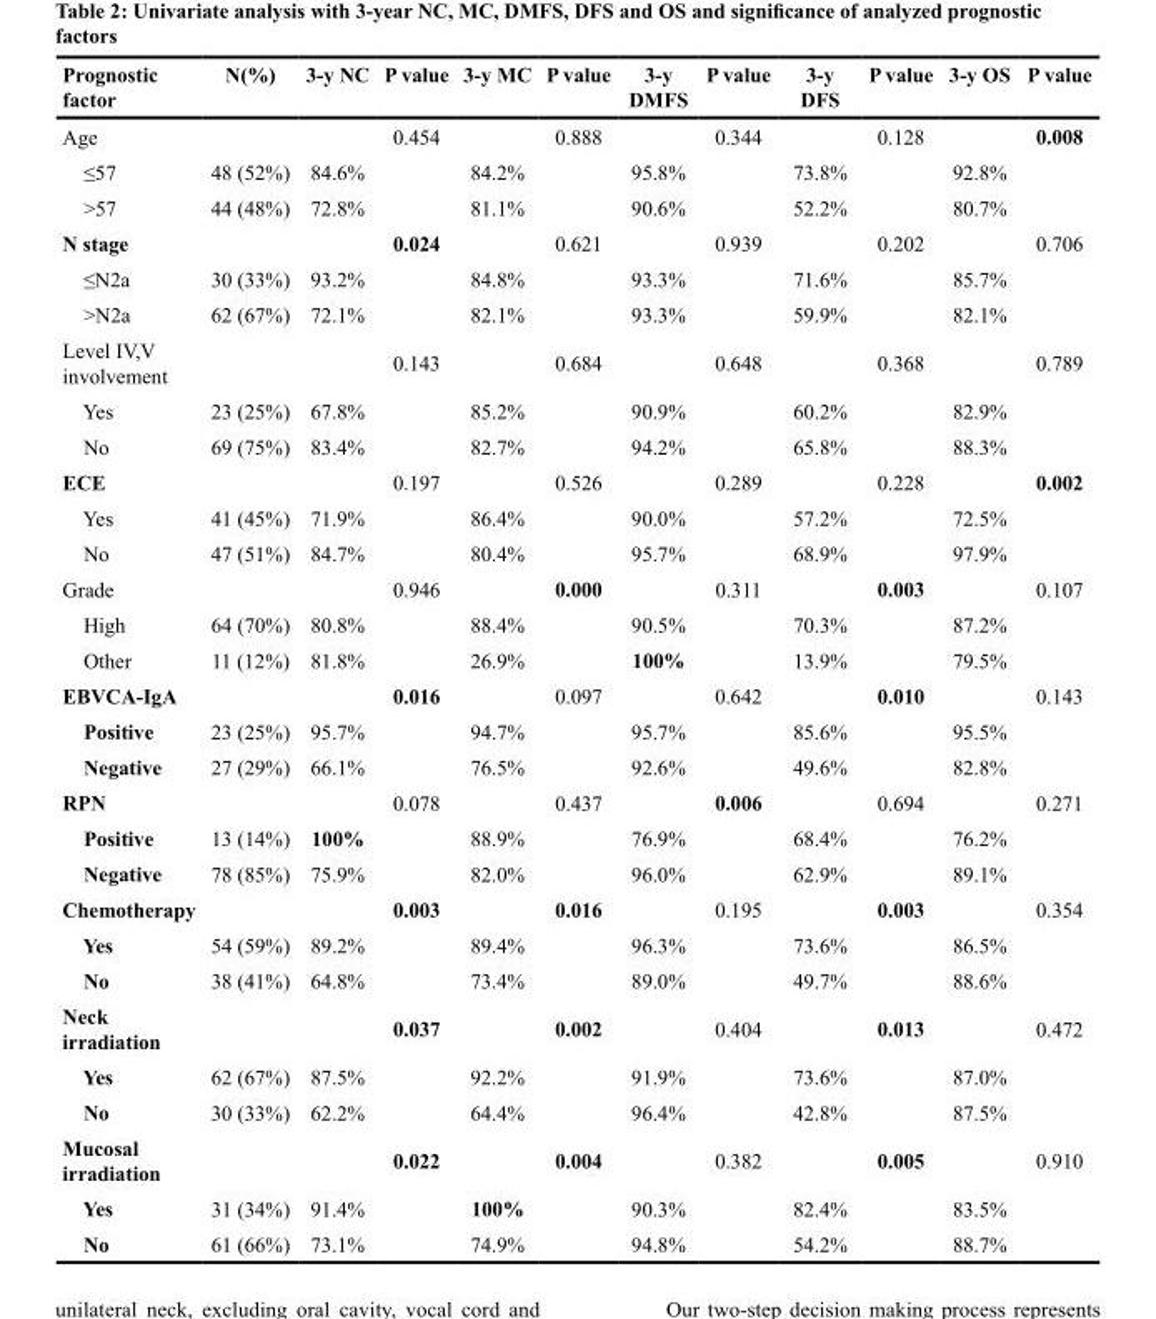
<table><thead><tr><td>Prognostic factor</td><td>N(%)</td><td>3-y NC</td><td>P value</td><td>3-y MC</td><td>P value</td><td>3-y DMFS</td><td>P value</td><td>3-y DFS</td><td>P value</td><td>3-y OS</td><td>P value</td></tr></thead><tbody><tr><td>Age</td><td></td><td></td><td>0.454</td><td></td><td>0.888</td><td></td><td>0.344</td><td></td><td>0.128</td><td></td><td>0.008</td></tr><tr><td>≤57</td><td>48 (52%)</td><td>84.6%</td><td></td><td>84.2%</td><td></td><td>95.8%</td><td></td><td>73.8%</td><td></td><td>92.8%</td><td></td></tr><tr><td>&gt;57</td><td>44 (48%)</td><td>72.8%</td><td></td><td>81.1%</td><td></td><td>90.6%</td><td></td><td>52.2%</td><td></td><td>80.7%</td><td></td></tr><tr><td>N stage</td><td></td><td></td><td>0.024</td><td></td><td>0.621</td><td></td><td>0.939</td><td></td><td>0.202</td><td></td><td>0.706</td></tr><tr><td>≤N2a</td><td>30 (33%)</td><td>93.2%</td><td></td><td>84.8%</td><td></td><td>93.3%</td><td></td><td>71.6%</td><td></td><td>85.7%</td><td></td></tr><tr><td>&gt;N2a</td><td>62 (67%)</td><td>72.1%</td><td></td><td>82.1%</td><td></td><td>93.3%</td><td></td><td>59.9%</td><td></td><td>82.1%</td><td></td></tr><tr><td>Level IV,V involvement</td><td></td><td></td><td>0.143</td><td></td><td>0.684</td><td></td><td>0.648</td><td></td><td>0.368</td><td></td><td>0.789</td></tr><tr><td>Yes</td><td>23 (25%)</td><td>67.8%</td><td></td><td>85.2%</td><td></td><td>90.9%</td><td></td><td>60.2%</td><td></td><td>82.9%</td><td></td></tr><tr><td>No</td><td>69 (75%)</td><td>83.4%</td><td></td><td>82.7%</td><td></td><td>94.2%</td><td></td><td>65.8%</td><td></td><td>88.3%</td><td></td></tr><tr><td>ECE</td><td></td><td></td><td>0.197</td><td></td><td>0.526</td><td></td><td>0.289</td><td></td><td>0.228</td><td></td><td>0.002</td></tr><tr><td>Yes</td><td>41 (45%)</td><td>71.9%</td><td></td><td>86.4%</td><td></td><td>90.0%</td><td></td><td>57.2%</td><td></td><td>72.5%</td><td></td></tr><tr><td>No</td><td>47 (51%)</td><td>84.7%</td><td></td><td>80.4%</td><td></td><td>95.7%</td><td></td><td>68.9%</td><td></td><td>97.9%</td><td></td></tr><tr><td>Grade</td><td></td><td></td><td>0.946</td><td></td><td>0.000</td><td></td><td>0.311</td><td></td><td>0.003</td><td></td><td>0.107</td></tr><tr><td>High</td><td>64 (70%)</td><td>80.8%</td><td></td><td>88.4%</td><td></td><td>90.5%</td><td></td><td>70.3%</td><td></td><td>87.2%</td><td></td></tr><tr><td>Other</td><td>11 (12%)</td><td>81.8%</td><td></td><td>26.9%</td><td></td><td>100%</td><td></td><td>13.9%</td><td></td><td>79.5%</td><td></td></tr><tr><td>EBVCA-IgA</td><td></td><td></td><td>0.016</td><td></td><td>0.097</td><td></td><td>0.642</td><td></td><td>0.010</td><td></td><td>0.143</td></tr><tr><td>Positive</td><td>23 (25%)</td><td>95.7%</td><td></td><td>94.7%</td><td></td><td>95.7%</td><td></td><td>85.6%</td><td></td><td>95.5%</td><td></td></tr><tr><td>Negative</td><td>27 (29%)</td><td>66.1%</td><td></td><td>76.5%</td><td></td><td>92.6%</td><td></td><td>49.6%</td><td></td><td>82.8%</td><td></td></tr><tr><td>RPN</td><td></td><td></td><td>0.078</td><td></td><td>0.437</td><td></td><td>0.006</td><td></td><td>0.694</td><td></td><td>0.271</td></tr><tr><td>Positive</td><td>13 (14%)</td><td>100%</td><td></td><td>88.9%</td><td></td><td>76.9%</td><td></td><td>68.4%</td><td></td><td>76.2%</td><td></td></tr><tr><td>Negative</td><td>78 (85%)</td><td>75.9%</td><td></td><td>82.0%</td><td></td><td>96.0%</td><td></td><td>62.9%</td><td></td><td>89.1%</td><td></td></tr><tr><td>Chemotherapy</td><td></td><td></td><td>0.003</td><td></td><td>0.016</td><td></td><td>0.195</td><td></td><td>0.003</td><td></td><td>0.354</td></tr><tr><td>Yes</td><td>54 (59%)</td><td>89.2%</td><td></td><td>89.4%</td><td></td><td>96.3%</td><td></td><td>73.6%</td><td></td><td>86.5%</td><td></td></tr><tr><td>No</td><td>38 (41%)</td><td>64.8%</td><td></td><td>73.4%</td><td></td><td>89.0%</td><td></td><td>49.7%</td><td></td><td>88.6%</td><td></td></tr><tr><td>Neck irradiation</td><td></td><td></td><td>0.037</td><td></td><td>0.002</td><td></td><td>0.404</td><td></td><td>0.013</td><td></td><td>0.472</td></tr><tr><td>Yes</td><td>62 (67%)</td><td>87.5%</td><td></td><td>92.2%</td><td></td><td>91.9%</td><td></td><td>73.6%</td><td></td><td>87.0%</td><td></td></tr><tr><td>No</td><td>30 (33%)</td><td>62.2%</td><td></td><td>64.4%</td><td></td><td>96.4%</td><td></td><td>42.8%</td><td></td><td>87.5%</td><td></td></tr><tr><td>Mucosal irradiation</td><td></td><td></td><td>0.022</td><td></td><td>0.004</td><td></td><td>0.382</td><td></td><td>0.005</td><td></td><td>0.910</td></tr><tr><td>Yes</td><td>31 (34%)</td><td>91.4%</td><td></td><td>100%</td><td></td><td>90.3%</td><td></td><td>82.4%</td><td></td><td>83.5%</td><td></td></tr><tr><td>No</td><td>61 (66%)</td><td>73.1%</td><td></td><td>74.9%</td><td></td><td>94.8%</td><td></td><td>54.2%</td><td></td><td>88.7%</td><td></td></tr></tbody></table>